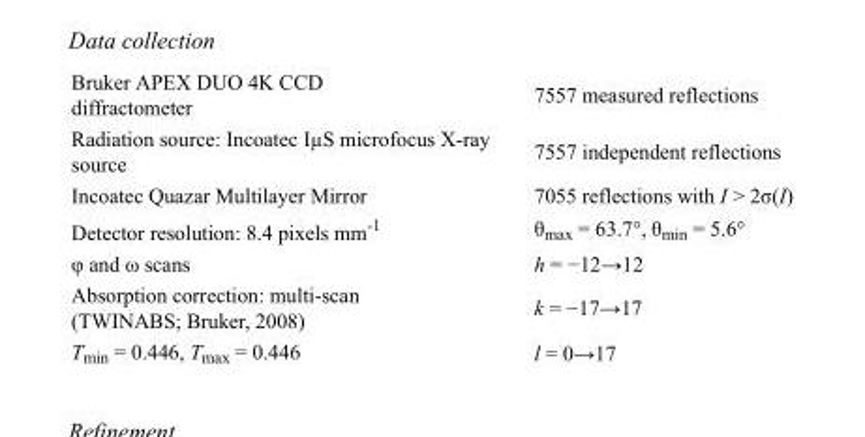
<table><tbody><tr><td>Bruker APEX DUO 4K CCD diffractometer</td><td>7557 measured reflections</td></tr><tr><td>Radiation source: Incoatec IµS microfocus X-ray source</td><td>7557 independent reflections</td></tr><tr><td>Incoatec Quazar Multilayer Mirror</td><td>7055 reflections with I &gt; 2σ(I)</td></tr><tr><td>Detector resolution: 8.4 pixels mm<sup>-1</sup></td><td>θ<sub>max</sub> = 63.7°, θ<sub>min</sub> = 5.6°</td></tr><tr><td>φ and ω scans</td><td>h = −12→12</td></tr><tr><td>Absorption correction: multi-scan (TWINABS; Bruker, 2008)</td><td>k = −17→17</td></tr><tr><td>T<sub>min</sub> = 0.446, T<sub>max</sub> = 0.446</td><td>l = 0→17</td></tr></tbody></table>